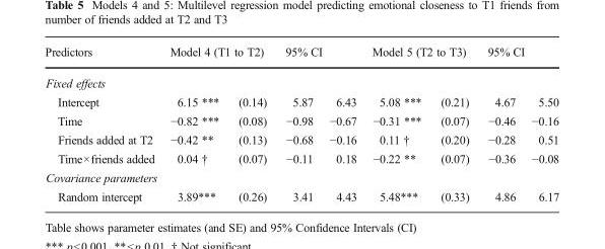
<table><thead><tr><td>Predictors</td><td colspan="2">Model 4 (T1 to T2)</td><td colspan="2">95% CI</td><td colspan="2">Model 5 (T2 to T3)</td><td colspan="2">95% CI</td></tr><tr><td colspan="9">Fixed effects</td></tr><tr><td>Intercept</td><td>6.15 ***</td><td>(0.14)</td><td>5.87</td><td>6.43</td><td>5.08 ***</td><td>(0.21)</td><td>4.67</td><td>5.50</td></tr></thead><tbody><tr><td>Time</td><td>−0.82 ***</td><td>(0.08)</td><td>−0.98</td><td>−0.67</td><td>−0.31 ***</td><td>(0.07)</td><td>−0.46</td><td>−0.16</td></tr><tr><td>Friends added at T2</td><td>−0.42 **</td><td>(0.13)</td><td>−0.68</td><td>−0.16</td><td>0.11 †</td><td>(0.20)</td><td>−0.28</td><td>0.51</td></tr><tr><td>Time×friends added</td><td>0.04 †</td><td>(0.07)</td><td>−0.11</td><td>0.18</td><td>−0.22 **</td><td>(0.07)</td><td>−0.36</td><td>−0.08</td></tr><tr><td colspan="9">Covariance parameters</td></tr><tr><td>Random intercept</td><td>3.89***</td><td>(0.26)</td><td>3.41</td><td>4.43</td><td>5.48***</td><td>(0.33)</td><td>4.86</td><td>6.17</td></tr></tbody></table>